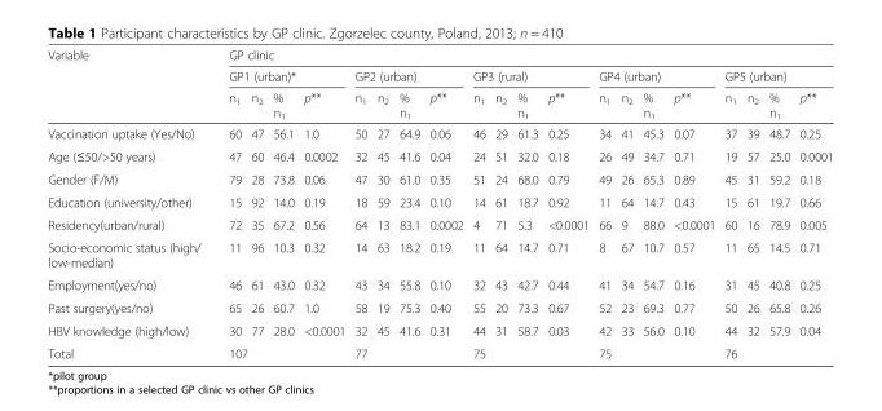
<table><thead><tr><td rowspan="3">Variable</td><td colspan="20">GP clinic</td></tr><tr><td colspan="4">GP1 (urban)*</td><td colspan="4">GP2 (urban)</td><td colspan="4">GP3 (rural)</td><td colspan="4">GP4 (urban)</td><td colspan="4">GP5 (urban)</td></tr><tr><td>n<sub>1</sub></td><td>n<sub>2</sub></td><td>% n<sub>1</sub></td><td>p**</td><td>n<sub>1</sub></td><td>n<sub>2</sub></td><td>% n<sub>1</sub></td><td>p**</td><td>n<sub>1</sub></td><td>n<sub>2</sub></td><td>% n<sub>1</sub></td><td>p**</td><td>n<sub>1</sub></td><td>n<sub>2</sub></td><td>% n<sub>1</sub></td><td>p**</td><td>n<sub>1</sub></td><td>n<sub>2</sub></td><td>% n<sub>1</sub></td><td>p**</td></tr></thead><tbody><tr><td>Vaccination uptake (Yes/No)</td><td>60</td><td>47</td><td>56.1</td><td>1.0</td><td>50</td><td>27</td><td>64.9</td><td>0.06</td><td>46</td><td>29</td><td>61.3</td><td>0.25</td><td>34</td><td>41</td><td>45.3</td><td>0.07</td><td>37</td><td>39</td><td>48.7</td><td>0.25</td></tr><tr><td>Age (≤50/&gt;50 years)</td><td>47</td><td>60</td><td>46.4</td><td>0.0002</td><td>32</td><td>45</td><td>41.6</td><td>0.04</td><td>24</td><td>51</td><td>32.0</td><td>0.18</td><td>26</td><td>49</td><td>34.7</td><td>0.71</td><td>19</td><td>57</td><td>25.0</td><td>0.0001</td></tr><tr><td>Gender (F/M)</td><td>79</td><td>28</td><td>73.8</td><td>0.06</td><td>47</td><td>30</td><td>61.0</td><td>0.35</td><td>51</td><td>24</td><td>68.0</td><td>0.79</td><td>49</td><td>26</td><td>65.3</td><td>0.89</td><td>45</td><td>31</td><td>59.2</td><td>0.18</td></tr><tr><td>Education (university/other)</td><td>15</td><td>92</td><td>14.0</td><td>0.19</td><td>18</td><td>59</td><td>23.4</td><td>0.10</td><td>14</td><td>61</td><td>18.7</td><td>0.92</td><td>11</td><td>64</td><td>14.7</td><td>0.43</td><td>15</td><td>61</td><td>19.7</td><td>0.66</td></tr><tr><td>Residency(urban/rural)</td><td>72</td><td>35</td><td>67.2</td><td>0.56</td><td>64</td><td>13</td><td>83.1</td><td>0.0002</td><td>4</td><td>71</td><td>5.3</td><td>&lt;0.0001</td><td>66</td><td>9</td><td>88.0</td><td>&lt;0.0001</td><td>60</td><td>16</td><td>78.9</td><td>0.005</td></tr><tr><td>Socio-economic status (high/ low-median)</td><td>11</td><td>96</td><td>10.3</td><td>0.32</td><td>14</td><td>63</td><td>18.2</td><td>0.19</td><td>11</td><td>64</td><td>14.7</td><td>0.71</td><td>8</td><td>67</td><td>10.7</td><td>0.57</td><td>11</td><td>65</td><td>14.5</td><td>0.71</td></tr><tr><td>Employment(yes/no)</td><td>46</td><td>61</td><td>43.0</td><td>0.32</td><td>43</td><td>34</td><td>55.8</td><td>0.10</td><td>32</td><td>43</td><td>42.7</td><td>0.44</td><td>41</td><td>34</td><td>54.7</td><td>0.16</td><td>31</td><td>45</td><td>40.8</td><td>0.25</td></tr><tr><td>Past surgery(yes/no)</td><td>65</td><td>26</td><td>60.7</td><td>1.0</td><td>58</td><td>19</td><td>75.3</td><td>0.40</td><td>55</td><td>20</td><td>73.3</td><td>0.67</td><td>52</td><td>23</td><td>69.3</td><td>0.77</td><td>50</td><td>26</td><td>65.8</td><td>0.26</td></tr><tr><td>HBV knowledge (high/low)</td><td>30</td><td>77</td><td>28.0</td><td>&lt;0.0001</td><td>32</td><td>45</td><td>41.6</td><td>0.31</td><td>44</td><td>31</td><td>58.7</td><td>0.03</td><td>42</td><td>33</td><td>56.0</td><td>0.10</td><td>44</td><td>32</td><td>57.9</td><td>0.04</td></tr><tr><td>Total</td><td colspan="4">107</td><td colspan="4">77</td><td colspan="4">75</td><td colspan="4">75</td><td colspan="4">76</td></tr></tbody></table>